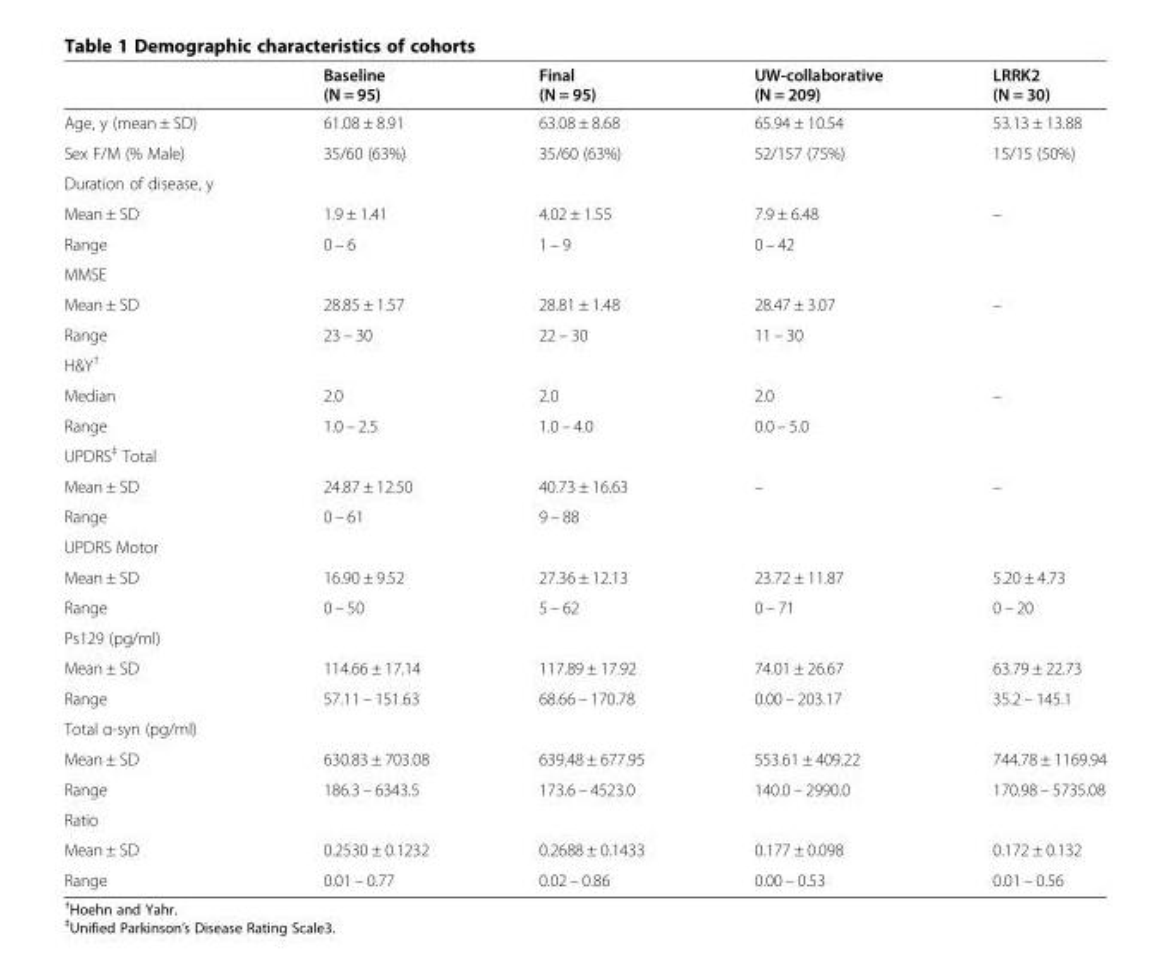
<table><thead><tr><td></td><td>Baseline (N = 95)</td><td>Final (N = 95)</td><td>UW-collaborative (N = 209)</td><td>LRRK2 (N = 30)</td></tr></thead><tbody><tr><td>Age, y (mean ± SD)</td><td>61.08 ± 8.91</td><td>63.08 ± 8.68</td><td>65.94 ± 10.54</td><td>53.13 ± 13.88</td></tr><tr><td>Sex F/M (% Male)</td><td>35/60 (63%)</td><td>35/60 (63%)</td><td>52/157 (75%)</td><td>15/15 (50%)</td></tr><tr><td colspan="5">Duration of disease, y</td></tr><tr><td>Mean ± SD</td><td>1.9 ± 1.41</td><td>4.02 ± 1.55</td><td>7.9 ± 6.48</td><td>–</td></tr><tr><td>Range</td><td>0 – 6</td><td>1 – 9</td><td>0 – 42</td><td></td></tr><tr><td colspan="5">MMSE</td></tr><tr><td>Mean ± SD</td><td>28.85 ± 1.57</td><td>28.81 ± 1.48</td><td>28.47 ± 3.07</td><td>–</td></tr><tr><td>Range</td><td>23 – 30</td><td>22 – 30</td><td>11 – 30</td><td></td></tr><tr><td colspan="5">H&amp;Y<sup>†</sup></td></tr><tr><td>Median</td><td>2.0</td><td>2.0</td><td>2.0</td><td>–</td></tr><tr><td>Range</td><td>1.0 – 2.5</td><td>1.0 – 4.0</td><td>0.0 – 5.0</td><td></td></tr><tr><td colspan="5">UPDRS<sup>‡</sup> Total</td></tr><tr><td>Mean ± SD</td><td>24.87 ± 12.50</td><td>40.73 ± 16.63</td><td>–</td><td>–</td></tr><tr><td>Range</td><td>0 – 61</td><td>9 – 88</td><td></td><td></td></tr><tr><td colspan="5">UPDRS Motor</td></tr><tr><td>Mean ± SD</td><td>16.90 ± 9.52</td><td>27.36 ± 12.13</td><td>23.72 ± 11.87</td><td>5.20 ± 4.73</td></tr><tr><td>Range</td><td>0 – 50</td><td>5 – 62</td><td>0 – 71</td><td>0 – 20</td></tr><tr><td colspan="5">Ps129 (pg/ml)</td></tr><tr><td>Mean ± SD</td><td>114.66 ± 17.14</td><td>117.89 ± 17.92</td><td>74.01 ± 26.67</td><td>63.79 ± 22.73</td></tr><tr><td>Range</td><td>57.11 – 151.63</td><td>68.66 – 170.78</td><td>0.00 – 203.17</td><td>35.2 – 145.1</td></tr><tr><td colspan="5">Total α-syn (pg/ml)</td></tr><tr><td>Mean ± SD</td><td>630.83 ± 703.08</td><td>639.48 ± 677.95</td><td>553.61 ± 409.22</td><td>744.78 ± 1169.94</td></tr><tr><td>Range</td><td>186.3 – 6343.5</td><td>173.6 – 4523.0</td><td>140.0 – 2990.0</td><td>170.98 – 5735.08</td></tr><tr><td colspan="5">Ratio</td></tr><tr><td>Mean ± SD</td><td>0.2530 ± 0.1232</td><td>0.2688 ± 0.1433</td><td>0.177 ± 0.098</td><td>0.172 ± 0.132</td></tr><tr><td>Range</td><td>0.01 – 0.77</td><td>0.02 – 0.86</td><td>0.00 – 0.53</td><td>0.01 – 0.56</td></tr></tbody></table>